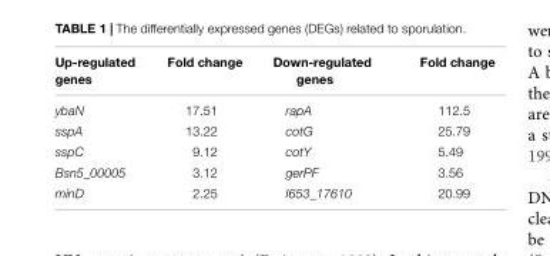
<table><thead><tr><td>Up-regulated genes</td><td>Fold change</td><td>Down-regulated genes</td><td>Fold change</td></tr></thead><tbody><tr><td>ybaN</td><td>17.51</td><td>rapA</td><td>112.5</td></tr><tr><td>sspA</td><td>13.22</td><td>cotG</td><td>25.79</td></tr><tr><td>sspC</td><td>9.12</td><td>cotY</td><td>5.49</td></tr><tr><td>Bsn5_00005</td><td>3.12</td><td>gerPF</td><td>3.56</td></tr><tr><td>minD</td><td>2.25</td><td>I653_17610</td><td>20.99</td></tr></tbody></table>